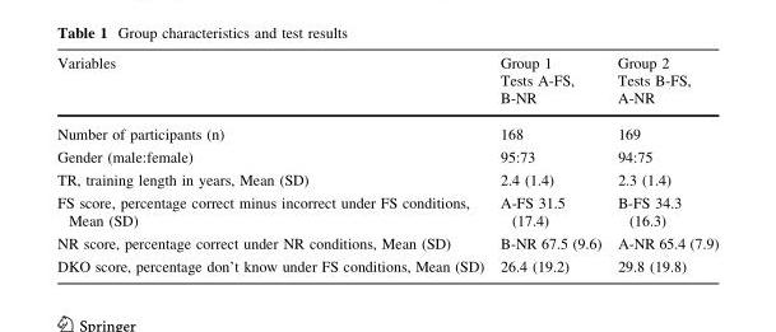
<table><thead><tr><td rowspan="2">Variables</td><td rowspan="2">Group 1 Tests A-FS, B-NR</td><td rowspan="2">Group 2 Tests B-FS, A-NR</td></tr><tr></tr></thead><tbody><tr><td>Number of participants (n)</td><td>168</td><td>169</td></tr><tr><td>Gender (male:female)</td><td>95:73</td><td>94:75</td></tr><tr><td>TR, training length in years, Mean (SD)</td><td>2.4 (1.4)</td><td>2.3 (1.4)</td></tr><tr><td>FS score, percentage correct minus incorrect under FS conditions, Mean (SD)</td><td>A-FS 31.5 (17.4)</td><td>B-FS 34.3 (16.3)</td></tr><tr><td>NR score, percentage correct under NR conditions, Mean (SD)</td><td>B-NR 67.5 (9.6)</td><td>A-NR 65.4 (7.9)</td></tr><tr><td>DKO score, percentage don’t know under FS conditions, Mean (SD)</td><td>26.4 (19.2)</td><td>29.8 (19.8)</td></tr></tbody></table>